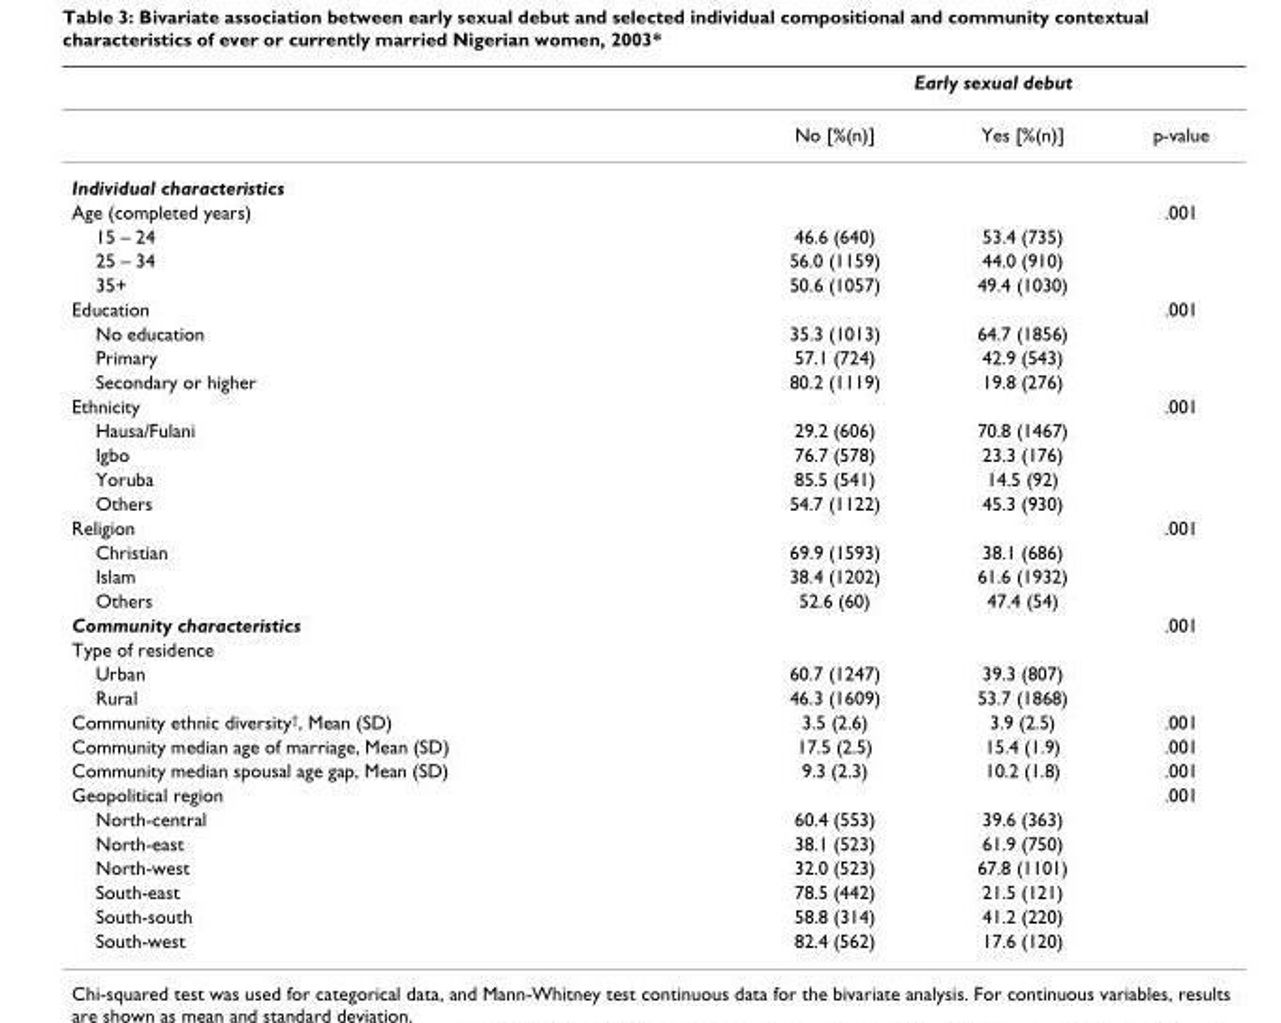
<table><thead><tr><td rowspan="2"></td><td colspan="3">Early sexual debut</td></tr><tr><td>No [%(n)]</td><td>Yes [%(n)]</td><td>p-value</td></tr></thead><tbody><tr><td colspan="4">Individual characteristics</td></tr><tr><td>Age (completed years)</td><td></td><td></td><td>.001</td></tr><tr><td>15 – 24</td><td>46.6 (640)</td><td>53.4 (735)</td><td></td></tr><tr><td>25 – 34</td><td>56.0 (1159)</td><td>44.0 (910)</td><td></td></tr><tr><td>35+</td><td>50.6 (1057)</td><td>49.4 (1030)</td><td></td></tr><tr><td>Education</td><td></td><td></td><td>.001</td></tr><tr><td>No education</td><td>35.3 (1013)</td><td>64.7 (1856)</td><td></td></tr><tr><td>Primary</td><td>57.1 (724)</td><td>42.9 (543)</td><td></td></tr><tr><td>Secondary or higher</td><td>80.2 (1119)</td><td>19.8 (276)</td><td></td></tr><tr><td>Ethnicity</td><td></td><td></td><td>.001</td></tr><tr><td>Hausa/Fulani</td><td>29.2 (606)</td><td>70.8 (1467)</td><td></td></tr><tr><td>Igbo</td><td>76.7 (578)</td><td>23.3 (176)</td><td></td></tr><tr><td>Yoruba</td><td>85.5 (541)</td><td>14.5 (92)</td><td></td></tr><tr><td>Others</td><td>54.7 (1122)</td><td>45.3 (930)</td><td></td></tr><tr><td>Religion</td><td></td><td></td><td>.001</td></tr><tr><td>Christian</td><td>69.9 (1593)</td><td>38.1 (686)</td><td></td></tr><tr><td>Islam</td><td>38.4 (1202)</td><td>61.6 (1932)</td><td></td></tr><tr><td>Others</td><td>52.6 (60)</td><td>47.4 (54)</td><td></td></tr><tr><td>Community characteristics</td><td></td><td></td><td>.001</td></tr><tr><td colspan="4">Type of residence</td></tr><tr><td>Urban</td><td>60.7 (1247)</td><td>39.3 (807)</td><td></td></tr><tr><td>Rural</td><td>46.3 (1609)</td><td>53.7 (1868)</td><td></td></tr><tr><td>Community ethnic diversity<sup>†</sup>, Mean (SD)</td><td>3.5 (2.6)</td><td>3.9 (2.5)</td><td>.001</td></tr><tr><td>Community median age of marriage, Mean (SD)</td><td>17.5 (2.5)</td><td>15.4 (1.9)</td><td>.001</td></tr><tr><td>Community median spousal age gap, Mean (SD)</td><td>9.3 (2.3)</td><td>10.2 (1.8)</td><td>.001</td></tr><tr><td>Geopolitical region</td><td></td><td></td><td>.001</td></tr><tr><td>North-central</td><td>60.4 (553)</td><td>39.6 (363)</td><td></td></tr><tr><td>North-east</td><td>38.1 (523)</td><td>61.9 (750)</td><td></td></tr><tr><td>North-west</td><td>32.0 (523)</td><td>67.8 (1101)</td><td></td></tr><tr><td>South-east</td><td>78.5 (442)</td><td>21.5 (121)</td><td></td></tr><tr><td>South-south</td><td>58.8 (314)</td><td>41.2 (220)</td><td></td></tr><tr><td>South-west</td><td>82.4 (562)</td><td>17.6 (120)</td><td></td></tr></tbody></table>